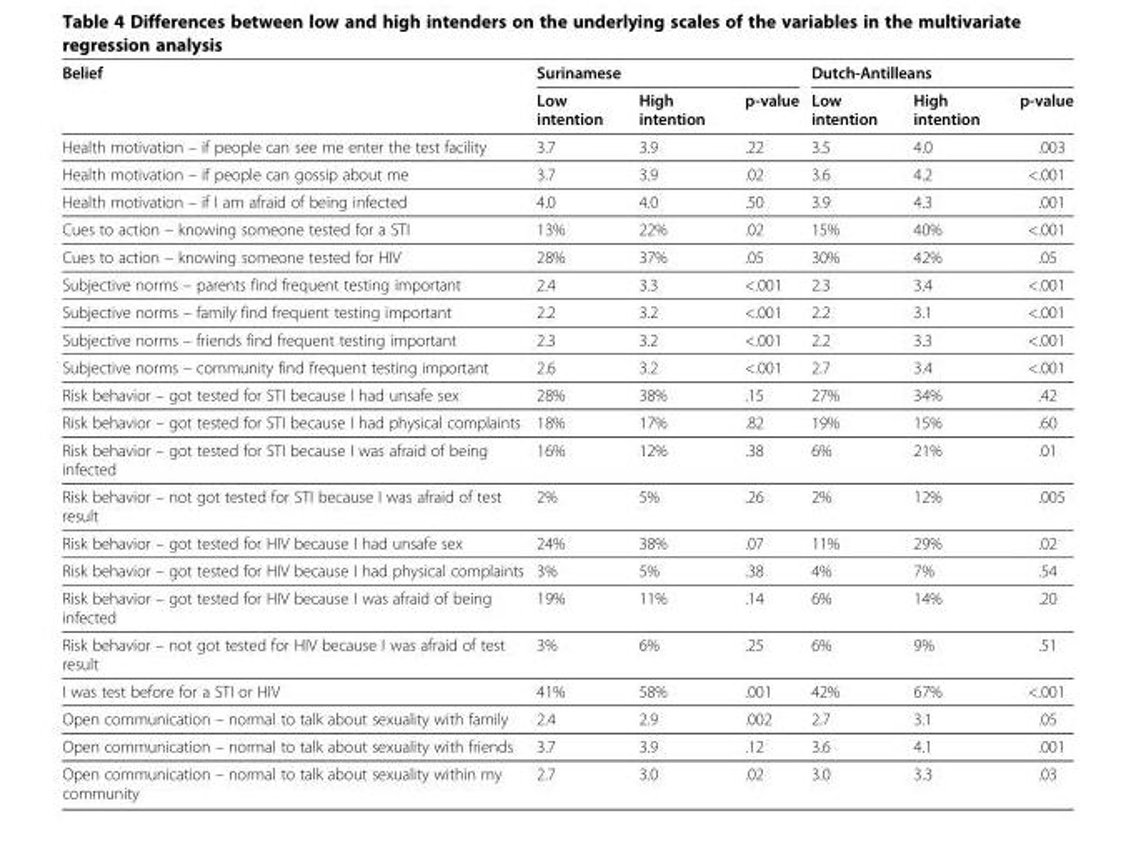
<table><thead><tr><td rowspan="2">Belief</td><td colspan="3">Surinamese</td><td colspan="3">Dutch-Antilleans</td></tr><tr><td>Low intention</td><td>High intention</td><td>p-value</td><td>Low intention</td><td>High intention</td><td>p-value</td></tr></thead><tbody><tr><td>Health motivation – if people can see me enter the test facility</td><td>3.7</td><td>3.9</td><td>.22</td><td>3.5</td><td>4.0</td><td>.003</td></tr><tr><td>Health motivation – if people can gossip about me</td><td>3.7</td><td>3.9</td><td>.02</td><td>3.6</td><td>4.2</td><td>&lt;.001</td></tr><tr><td>Health motivation – if I am afraid of being infected</td><td>4.0</td><td>4.0</td><td>.50</td><td>3.9</td><td>4.3</td><td>.001</td></tr><tr><td>Cues to action – knowing someone tested for a STI</td><td>13%</td><td>22%</td><td>.02</td><td>15%</td><td>40%</td><td>&lt;.001</td></tr><tr><td>Cues to action – knowing someone tested for HIV</td><td>28%</td><td>37%</td><td>.05</td><td>30%</td><td>42%</td><td>.05</td></tr><tr><td>Subjective norms – parents find frequent testing important</td><td>2.4</td><td>3.3</td><td>&lt;.001</td><td>2.3</td><td>3.4</td><td>&lt;.001</td></tr><tr><td>Subjective norms – family find frequent testing important</td><td>2.2</td><td>3.2</td><td>&lt;.001</td><td>2.2</td><td>3.1</td><td>&lt;.001</td></tr><tr><td>Subjective norms – friends find frequent testing important</td><td>2.3</td><td>3.2</td><td>&lt;.001</td><td>2.2</td><td>3.3</td><td>&lt;.001</td></tr><tr><td>Subjective norms – community find frequent testing important</td><td>2.6</td><td>3.2</td><td>&lt;.001</td><td>2.7</td><td>3.4</td><td>&lt;.001</td></tr><tr><td>Risk behavior – got tested for STI because I had unsafe sex</td><td>28%</td><td>38%</td><td>.15</td><td>27%</td><td>34%</td><td>.42</td></tr><tr><td>Risk behavior – got tested for STI because I had physical complaints</td><td>18%</td><td>17%</td><td>.82</td><td>19%</td><td>15%</td><td>.60</td></tr><tr><td>Risk behavior – got tested for STI because I was afraid of being infected</td><td>16%</td><td>12%</td><td>.38</td><td>6%</td><td>21%</td><td>.01</td></tr><tr><td>Risk behavior – not got tested for STI because I was afraid of test result</td><td>2%</td><td>5%</td><td>.26</td><td>2%</td><td>12%</td><td>.005</td></tr><tr><td>Risk behavior – got tested for HIV because I had unsafe sex</td><td>24%</td><td>38%</td><td>.07</td><td>11%</td><td>29%</td><td>.02</td></tr><tr><td>Risk behavior – got tested for HIV because I had physical complaints</td><td>3%</td><td>5%</td><td>.38</td><td>4%</td><td>7%</td><td>.54</td></tr><tr><td>Risk behavior – got tested for HIV because I was afraid of being infected</td><td>19%</td><td>11%</td><td>.14</td><td>6%</td><td>14%</td><td>.20</td></tr><tr><td>Risk behavior – not got tested for HIV because I was afraid of test result</td><td>3%</td><td>6%</td><td>.25</td><td>6%</td><td>9%</td><td>.51</td></tr><tr><td>I was test before for a STI or HIV</td><td>41%</td><td>58%</td><td>.001</td><td>42%</td><td>67%</td><td>&lt;.001</td></tr><tr><td>Open communication – normal to talk about sexuality with family</td><td>2.4</td><td>2.9</td><td>.002</td><td>2.7</td><td>3.1</td><td>.05</td></tr><tr><td>Open communication – normal to talk about sexuality with friends</td><td>3.7</td><td>3.9</td><td>.12</td><td>3.6</td><td>4.1</td><td>.001</td></tr><tr><td>Open communication – normal to talk about sexuality within my community</td><td>2.7</td><td>3.0</td><td>.02</td><td>3.0</td><td>3.3</td><td>.03</td></tr></tbody></table>